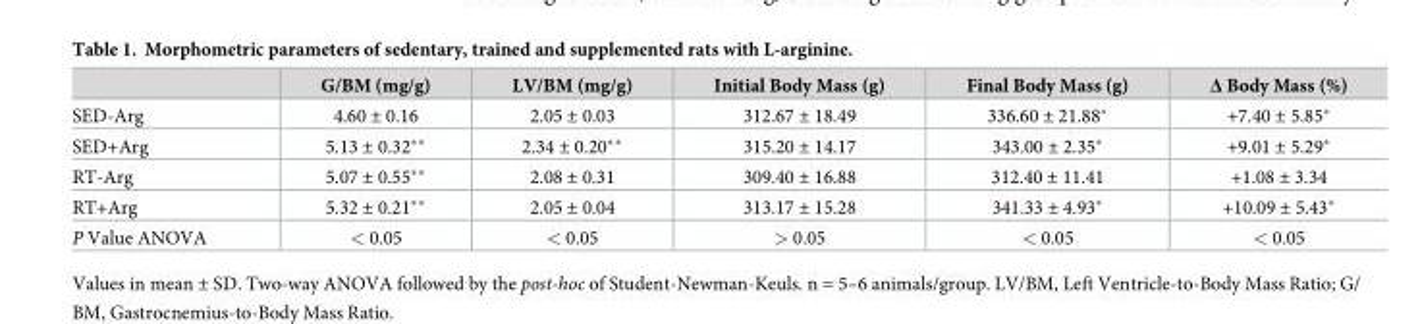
<table><thead><tr><td></td><td>G/BM (mg/g)</td><td>LV/BM (mg/g)</td><td>Initial Body Mass (g)</td><td>Final Body Mass (g)</td><td>Δ Body Mass (%)</td></tr></thead><tbody><tr><td>SED-Arg</td><td>4.60 ± 0.16</td><td>2.05 ± 0.03</td><td>312.67 ± 18.49</td><td>336.60 ± 21.88*</td><td>+7.40 ± 5.85*</td></tr><tr><td>SED+Arg</td><td>5.13 ± 0.32**</td><td>2.34 ± 0.20**</td><td>315.20 ± 14.17</td><td>343.00 ± 2.35*</td><td>+9.01 ± 5.29*</td></tr><tr><td>RT-Arg</td><td>5.07 ± 0.55**</td><td>2.08 ± 0.31</td><td>309.40 ± 16.88</td><td>312.40 ± 11.41</td><td>+1.08 ± 3.34</td></tr><tr><td>RT+Arg</td><td>5.32 ± 0.21**</td><td>2.05 ± 0.04</td><td>313.17 ± 15.28</td><td>341.33 ± 4.93*</td><td>+10.09 ± 5.43*</td></tr><tr><td>P Value ANOVA</td><td>&lt; 0.05</td><td>&lt; 0.05</td><td>&gt; 0.05</td><td>&lt; 0.05</td><td>&lt; 0.05</td></tr></tbody></table>